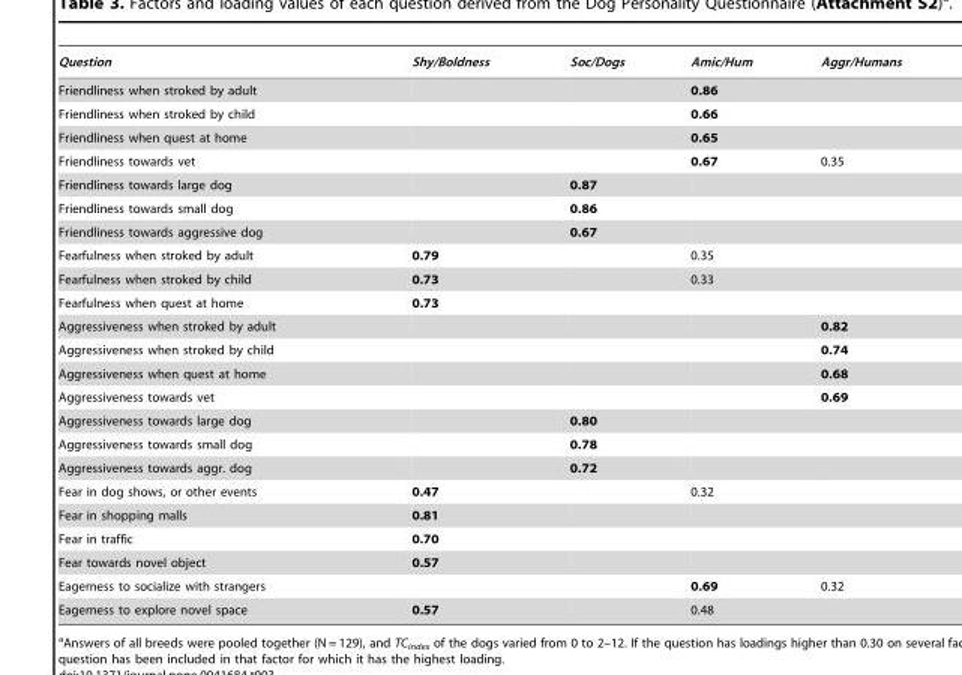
<table><thead><tr><td>Question</td><td>Shy/Boldness</td><td>Soc/Dogs</td><td>Amic/Hum</td><td>Aggr/Humans</td></tr></thead><tbody><tr><td>Friendliness when stroked by adult</td><td></td><td></td><td>0.86</td><td></td></tr><tr><td>Friendliness when stroked by child</td><td></td><td></td><td>0.66</td><td></td></tr><tr><td>Friendliness when quest at home</td><td></td><td></td><td>0.65</td><td></td></tr><tr><td>Friendliness towards vet</td><td></td><td></td><td>0.67</td><td>0.35</td></tr><tr><td>Friendliness towards large dog</td><td></td><td>0.87</td><td></td><td></td></tr><tr><td>Friendliness towards small dog</td><td></td><td>0.86</td><td></td><td></td></tr><tr><td>Friendliness towards aggressive dog</td><td></td><td>0.67</td><td></td><td></td></tr><tr><td>Fearfulness when stroked by adult</td><td>0.79</td><td></td><td>0.35</td><td></td></tr><tr><td>Fearfulness when stroked by child</td><td>0.73</td><td></td><td>0.33</td><td></td></tr><tr><td>Fearfulness when quest at home</td><td>0.73</td><td></td><td></td><td></td></tr><tr><td>Aggressiveness when stroked by adult</td><td></td><td></td><td></td><td>0.82</td></tr><tr><td>Aggressiveness when stroked by child</td><td></td><td></td><td></td><td>0.74</td></tr><tr><td>Aggressiveness when quest at home</td><td></td><td></td><td></td><td>0.68</td></tr><tr><td>Aggressiveness towards vet</td><td></td><td></td><td></td><td>0.69</td></tr><tr><td>Aggressiveness towards large dog</td><td></td><td>0.80</td><td></td><td></td></tr><tr><td>Aggressiveness towards small dog</td><td></td><td>0.78</td><td></td><td></td></tr><tr><td>Aggressiveness towards aggr. dog</td><td></td><td>0.72</td><td></td><td></td></tr><tr><td>Fear in dog shows, or other events</td><td>0.47</td><td></td><td>0.32</td><td></td></tr><tr><td>Fear in shopping malls</td><td>0.81</td><td></td><td></td><td></td></tr><tr><td>Fear in traffic</td><td>0.70</td><td></td><td></td><td></td></tr><tr><td>Fear towards novel object</td><td>0.57</td><td></td><td></td><td></td></tr><tr><td>Eagerness to socialize with strangers</td><td></td><td></td><td>0.69</td><td>0.32</td></tr><tr><td>Eagerness to explore novel space</td><td>0.57</td><td></td><td>0.48</td><td></td></tr></tbody></table>